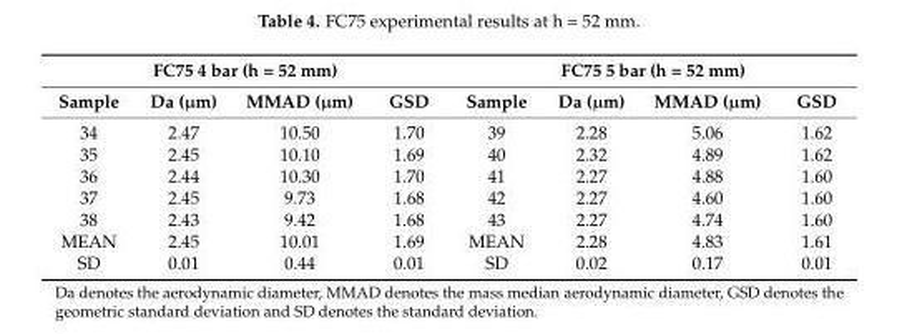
<table><thead><tr><td colspan="4">FC75 4 bar (h = 52 mm)</td><td colspan="4">FC75 5 bar (h = 52 mm)</td></tr><tr><td>Sample</td><td>Da (µm)</td><td>MMAD (µm)</td><td>GSD</td><td>Sample</td><td>Da (µm)</td><td>MMAD (µm)</td><td>GSD</td></tr></thead><tbody><tr><td>34</td><td>2.47</td><td>10.50</td><td>1.70</td><td>39</td><td>2.28</td><td>5.06</td><td>1.62</td></tr><tr><td>35</td><td>2.45</td><td>10.10</td><td>1.69</td><td>40</td><td>2.32</td><td>4.89</td><td>1.62</td></tr><tr><td>36</td><td>2.44</td><td>10.30</td><td>1.70</td><td>41</td><td>2.27</td><td>4.88</td><td>1.60</td></tr><tr><td>37</td><td>2.45</td><td>9.73</td><td>1.68</td><td>42</td><td>2.27</td><td>4.60</td><td>1.60</td></tr><tr><td>38</td><td>2.43</td><td>9.42</td><td>1.68</td><td>43</td><td>2.27</td><td>4.74</td><td>1.60</td></tr><tr><td>MEAN</td><td>2.45</td><td>10.01</td><td>1.69</td><td>MEAN</td><td>2.28</td><td>4.83</td><td>1.61</td></tr><tr><td>SD</td><td>0.01</td><td>0.44</td><td>0.01</td><td>SD</td><td>0.02</td><td>0.17</td><td>0.01</td></tr></tbody></table>